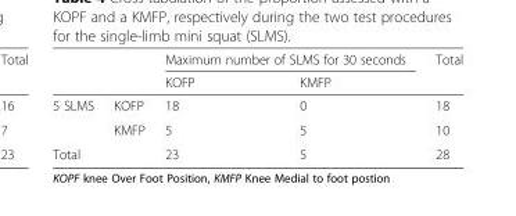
<table><thead><tr><td rowspan="2"></td><td rowspan="2"></td><td colspan="2">Maximum number of SLMS for 30 seconds</td><td rowspan="2">Total</td></tr><tr><td>KOFP</td><td>KMFP</td></tr></thead><tbody><tr><td rowspan="2">5 SLMS</td><td>KOFP</td><td>18</td><td>0</td><td>18</td></tr><tr><td>KMFP</td><td>5</td><td>5</td><td>10</td></tr><tr><td>Total</td><td></td><td>23</td><td>5</td><td>28</td></tr></tbody></table>